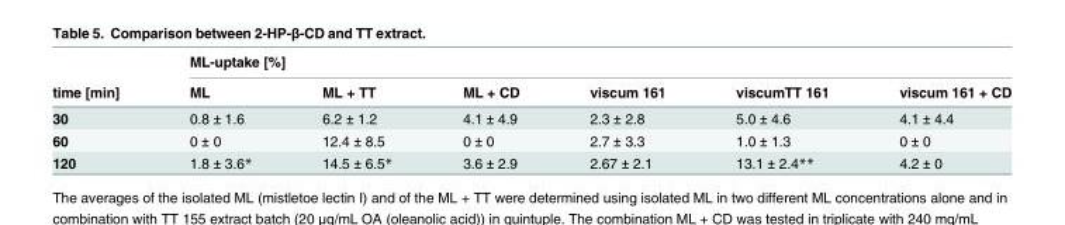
<table><thead><tr><td rowspan="2">time [min]</td><td colspan="6">ML-uptake [%]</td></tr><tr><td>ML</td><td>ML + TT</td><td>ML + CD</td><td>viscum 161</td><td>viscumTT 161</td><td>viscum 161 + CD</td></tr></thead><tbody><tr><td>30</td><td>0.8 ± 1.6</td><td>6.2 ± 1.2</td><td>4.1 ± 4.9</td><td>2.3 ± 2.8</td><td>5.0 ± 4.6</td><td>4.1 ± 4.4</td></tr><tr><td>60</td><td>0 ± 0</td><td>12.4 ± 8.5</td><td>0 ± 0</td><td>2.7 ± 3.3</td><td>1.0 ± 1.3</td><td>0 ± 0</td></tr><tr><td>120</td><td>1.8 ± 3.6*</td><td>14.5 ± 6.5*</td><td>3.6 ± 2.9</td><td>2.67 ± 2.1</td><td>13.1 ± 2.4**</td><td>4.2 ± 0</td></tr></tbody></table>